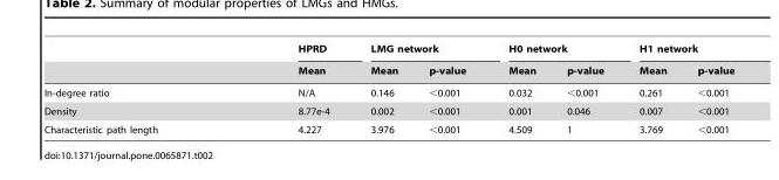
<table><thead><tr><td rowspan="2"></td><td rowspan="2">HPRD Mean</td><td colspan="2">LMG network</td><td colspan="2">H0 network</td><td colspan="2">H1 network</td></tr><tr><td>Mean</td><td>p-value</td><td>Mean</td><td>p-value</td><td>Mean</td><td>p-value</td></tr></thead><tbody><tr><td>In-degree ratio</td><td>N/A</td><td>0.146</td><td>&lt;0.001</td><td>0.032</td><td>&lt;0.001</td><td>0.261</td><td>&lt;0.001</td></tr><tr><td>Density</td><td>8.77e-4</td><td>0.002</td><td>&lt;0.001</td><td>0.001</td><td>0.046</td><td>0.007</td><td>&lt;0.001</td></tr><tr><td>Characteristic path length</td><td>4.227</td><td>3.976</td><td>&lt;0.001</td><td>4.509</td><td>1</td><td>3.769</td><td>&lt;0.001</td></tr></tbody></table>